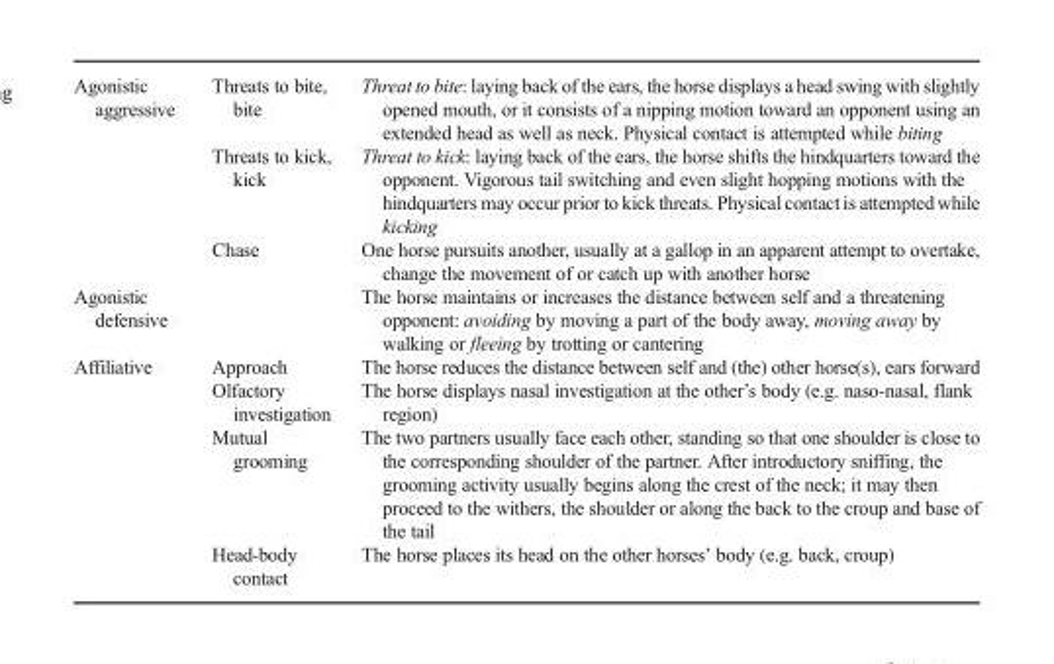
<table><tbody><tr><td rowspan="3">Agonistic aggressive</td><td>Threats to bite, bite</td><td>Threat to bite: laying back of the ears, the horse displays a head swing with slightly opened mouth, or it consists of a nipping motion toward an opponent using an extended head as well as neck. Physical contact is attempted while biting</td></tr><tr><td>Threats to kick, kick</td><td>Threat to kick: laying back of the ears, the horse shifts the hindquarters toward the opponent. Vigorous tail switching and even slight hopping motions with the hindquarters may occur prior to kick threats. Physical contact is attempted while kicking</td></tr><tr><td>Chase</td><td>One horse pursuits another, usually at a gallop in an apparent attempt to overtake, change the movement of or catch up with another horse</td></tr><tr><td>Agonistic defensive</td><td></td><td>The horse maintains or increases the distance between self and a threatening opponent: avoiding by moving a part of the body away, moving away by walking or fleeing by trotting or cantering</td></tr><tr><td rowspan="4">Affiliative</td><td>Approach</td><td>The horse reduces the distance between self and (the) other horse(s), ears forward</td></tr><tr><td>Olfactory investigation</td><td>The horse displays nasal investigation at the other’s body (e.g. naso-nasal, flank region)</td></tr><tr><td>Mutual grooming</td><td>The two partners usually face each other, standing so that one shoulder is close to the corresponding shoulder of the partner. After introductory sniffing, the grooming activity usually begins along the crest of the neck; it may then proceed to the withers, the shoulder or along the back to the croup and base of the tail</td></tr><tr><td>Head-body contact</td><td>The horse places its head on the other horses’ body (e.g. back, croup)</td></tr></tbody></table>